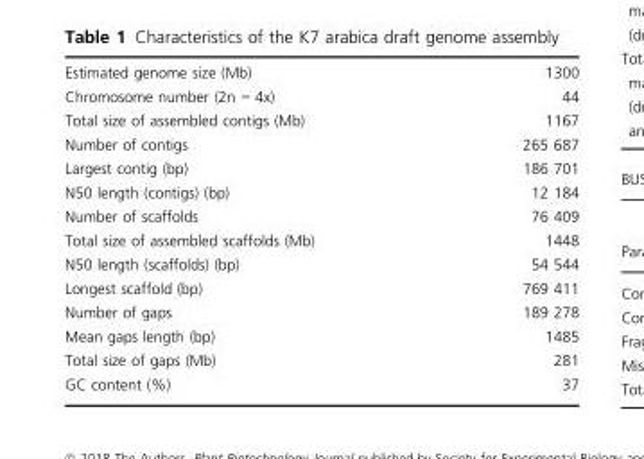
<table><tbody><tr><td>Estimated genome size (Mb)</td><td>1300</td></tr><tr><td>Chromosome number (2n = 4x)</td><td>44</td></tr><tr><td>Total size of assembled contigs (Mb)</td><td>1167</td></tr><tr><td>Number of contigs</td><td>265 687</td></tr><tr><td>Largest contig (bp)</td><td>186 701</td></tr><tr><td>N50 length (contigs) (bp)</td><td>12 184</td></tr><tr><td>Number of scaffolds</td><td>76 409</td></tr><tr><td>Total size of assembled scaffolds (Mb)</td><td>1448</td></tr><tr><td>N50 length (scaffolds) (bp)</td><td>54 544</td></tr><tr><td>Longest scaffold (bp)</td><td>769 411</td></tr><tr><td>Number of gaps</td><td>189 278</td></tr><tr><td>Mean gaps length (bp)</td><td>1485</td></tr><tr><td>Total size of gaps (Mb)</td><td>281</td></tr><tr><td>GC content (%)</td><td>37</td></tr></tbody></table>